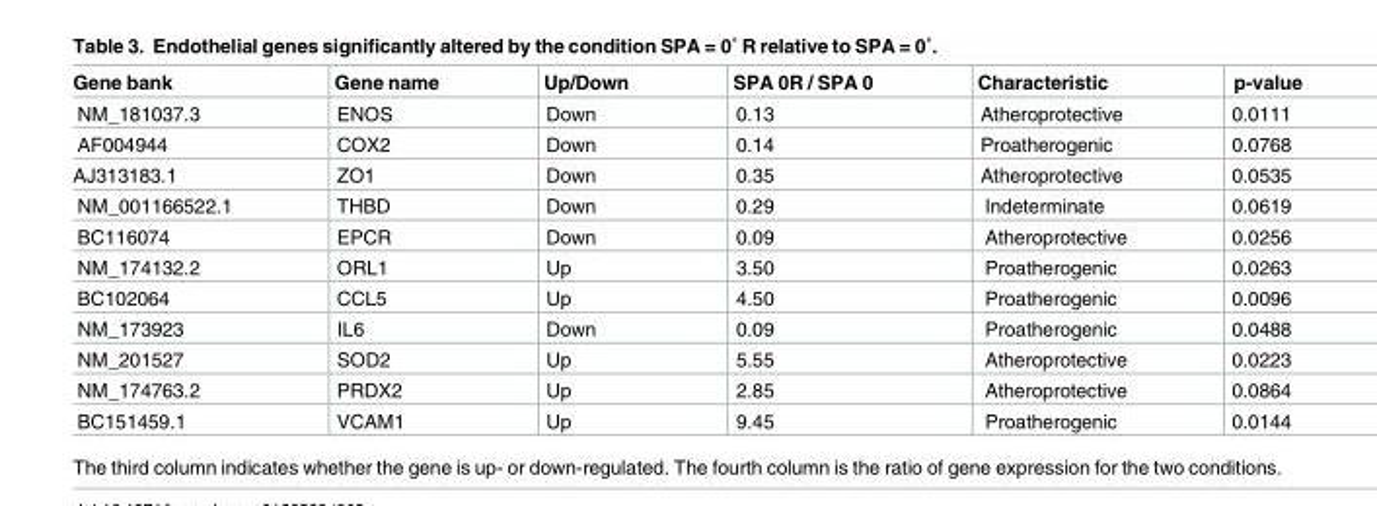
<table><thead><tr><td>Gene bank</td><td>Gene name</td><td>Up/Down</td><td>SPA 0R / SPA 0</td><td>Characteristic</td><td>p-value</td></tr></thead><tbody><tr><td>NM_181037.3</td><td>ENOS</td><td>Down</td><td>0.13</td><td>Atheroprotective</td><td>0.0111</td></tr><tr><td>AF004944</td><td>COX2</td><td>Down</td><td>0.14</td><td>Proatherogenic</td><td>0.0768</td></tr><tr><td>AJ313183.1</td><td>ZO1</td><td>Down</td><td>0.35</td><td>Atheroprotective</td><td>0.0535</td></tr><tr><td>NM_001166522.1</td><td>THBD</td><td>Down</td><td>0.29</td><td>Indeterminate</td><td>0.0619</td></tr><tr><td>BC116074</td><td>EPCR</td><td>Down</td><td>0.09</td><td>Atheroprotective</td><td>0.0256</td></tr><tr><td>NM_174132.2</td><td>ORL1</td><td>Up</td><td>3.50</td><td>Proatherogenic</td><td>0.0263</td></tr><tr><td>BC102064</td><td>CCL5</td><td>Up</td><td>4.50</td><td>Proatherogenic</td><td>0.0096</td></tr><tr><td>NM_173923</td><td>IL6</td><td>Down</td><td>0.09</td><td>Proatherogenic</td><td>0.0488</td></tr><tr><td>NM_201527</td><td>SOD2</td><td>Up</td><td>5.55</td><td>Atheroprotective</td><td>0.0223</td></tr><tr><td>NM_174763.2</td><td>PRDX2</td><td>Up</td><td>2.85</td><td>Atheroprotective</td><td>0.0864</td></tr><tr><td>BC151459.1</td><td>VCAM1</td><td>Up</td><td>9.45</td><td>Proatherogenic</td><td>0.0144</td></tr></tbody></table>